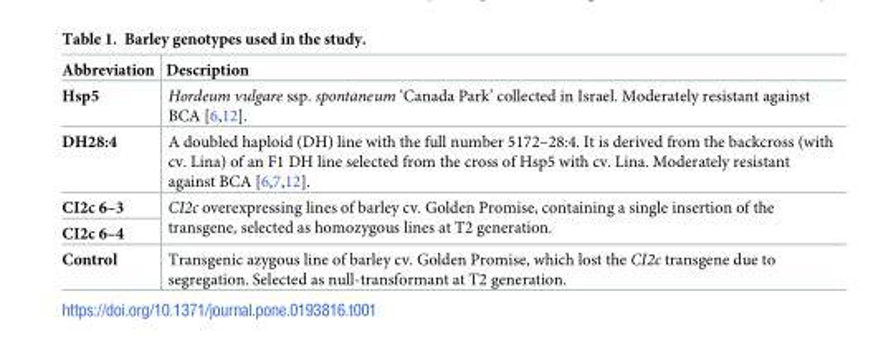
<table><thead><tr><td>Abbreviation</td><td>Description</td></tr></thead><tbody><tr><td>Hsp5</td><td>Hordeum vulgare ssp. spontaneum ‘Canada Park’ collected in Israel. Moderately resistant against BCA [6,12].</td></tr><tr><td>DH28:4</td><td>A doubled haploid (DH) line with the full number 5172–28:4. It is derived from the backcross (with cv. Lina) of an F1 DH line selected from the cross of Hsp5 with cv. Lina. Moderately resistant against BCA [6,7,12].</td></tr><tr><td>CI2c 6–3</td><td rowspan="2">CI2c overexpressing lines of barley cv. Golden Promise, containing a single insertion of the transgene, selected as homozygous lines at T2 generation.</td></tr><tr><td>CI2c 6–4</td></tr><tr><td>Control</td><td>Transgenic azygous line of barley cv. Golden Promise, which lost the CI2c transgene due to segregation. Selected as null-transformant at T2 generation.</td></tr></tbody></table>